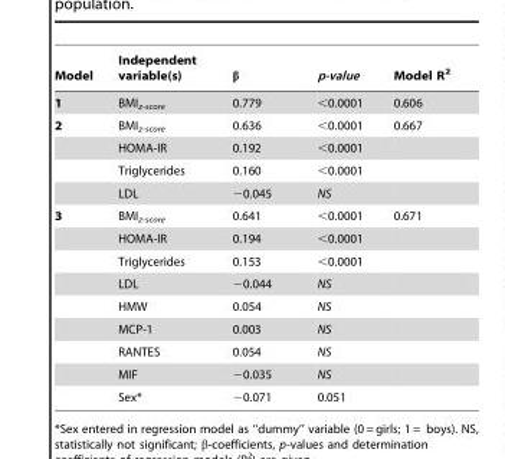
<table><thead><tr><td>Model</td><td>Independent variable(s)</td><td>β</td><td>p-value</td><td>Model R<sup>2</sup></td></tr></thead><tbody><tr><td>1</td><td>BMI<sub>z-score</sub></td><td>0.779</td><td>&lt;0.0001</td><td>0.606</td></tr><tr><td rowspan="4">2</td><td>BMI<sub>z-score</sub></td><td>0.636</td><td>&lt;0.0001</td><td>0.667</td></tr><tr><td>HOMA-IR</td><td>0.192</td><td>&lt;0.0001</td><td></td></tr><tr><td>Triglycerides</td><td>0.160</td><td>&lt;0.0001</td><td></td></tr><tr><td>LDL</td><td>−0.045</td><td>NS</td><td></td></tr><tr><td rowspan="9">3</td><td>BMI<sub>z-score</sub></td><td>0.641</td><td>&lt;0.0001</td><td>0.671</td></tr><tr><td>HOMA-IR</td><td>0.194</td><td>&lt;0.0001</td><td></td></tr><tr><td>Triglycerides</td><td>0.153</td><td>&lt;0.0001</td><td></td></tr><tr><td>LDL</td><td>−0.044</td><td>NS</td><td></td></tr><tr><td>HMW</td><td>0.054</td><td>NS</td><td></td></tr><tr><td>MCP-1</td><td>0.003</td><td>NS</td><td></td></tr><tr><td>RANTES</td><td>0.054</td><td>NS</td><td></td></tr><tr><td>MIF</td><td>−0.035</td><td>NS</td><td></td></tr><tr><td>Sex*</td><td>−0.071</td><td>0.051</td><td></td></tr></tbody></table>